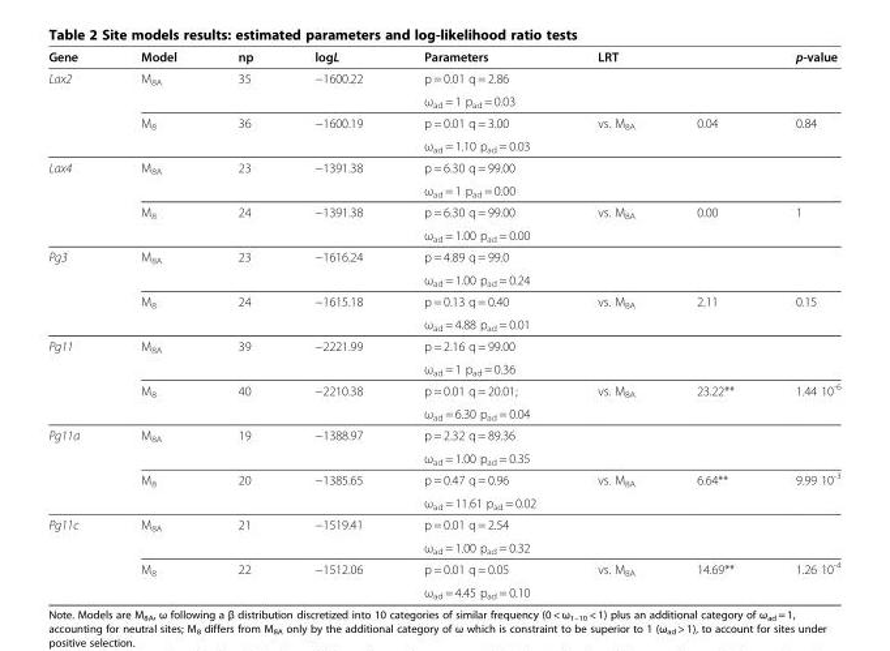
<table><thead><tr><td rowspan="2">Gene Lax2</td><td rowspan="2">Model M<sub>8A</sub></td><td rowspan="2">np 35</td><td rowspan="2">logL −1600.22</td><td rowspan="2">Parameters p = 0.01 q = 2.86</td><td colspan="2">LRT</td><td rowspan="2">p-value</td></tr><tr><td></td><td></td></tr></thead><tbody><tr><td></td><td></td><td></td><td></td><td>ω<sub>ad</sub> = 1 p<sub>ad</sub> = 0.03</td><td></td><td></td><td></td></tr><tr><td></td><td>M<sub>8</sub></td><td>36</td><td>−1600.19</td><td>p = 0.01 q = 3.00</td><td>vs. M<sub>8A</sub></td><td>0.04</td><td>0.84</td></tr><tr><td></td><td></td><td></td><td></td><td>ω<sub>ad</sub> = 1.10 p<sub>ad</sub> = 0.03</td><td></td><td></td><td></td></tr><tr><td rowspan="4">Lax4</td><td>M<sub>8A</sub></td><td>23</td><td>−1391.38</td><td>p = 6.30 q = 99.00</td><td></td><td></td><td></td></tr><tr><td></td><td></td><td></td><td>ω<sub>ad</sub> = 1 p<sub>ad</sub> = 0.00</td><td></td><td></td><td></td></tr><tr><td>M<sub>8</sub></td><td>24</td><td>−1391.38</td><td>p = 6.30 q = 99.00</td><td>vs. M<sub>8A</sub></td><td>0.00</td><td>1</td></tr><tr><td></td><td></td><td></td><td>ω<sub>ad</sub> = 1.00 p<sub>ad</sub> = 0.00</td><td></td><td></td><td></td></tr><tr><td rowspan="4">Pg3</td><td>M<sub>8A</sub></td><td>23</td><td>−1616.24</td><td>p = 4.89 q = 99.0</td><td></td><td></td><td></td></tr><tr><td></td><td></td><td></td><td>ω<sub>ad</sub> = 1.00 p<sub>ad</sub> = 0.24</td><td></td><td></td><td></td></tr><tr><td>M<sub>8</sub></td><td>24</td><td>−1615.18</td><td>p = 0.13 q = 0.40</td><td>vs. M<sub>8A</sub></td><td>2.11</td><td>0.15</td></tr><tr><td></td><td></td><td></td><td>ω<sub>ad</sub> = 4.88 p<sub>ad</sub> = 0.01</td><td></td><td></td><td></td></tr><tr><td rowspan="4">Pg11</td><td>M<sub>8A</sub></td><td>39</td><td>−2221.99</td><td>p = 2.16 q = 99.00</td><td></td><td></td><td></td></tr><tr><td></td><td></td><td></td><td>ω<sub>ad</sub> = 1 p<sub>ad</sub> = 0.36</td><td></td><td></td><td></td></tr><tr><td>M<sub>8</sub></td><td>40</td><td>−2210.38</td><td>p = 0.01 q = 20.01;</td><td>vs. M<sub>8A</sub></td><td>23.22**</td><td>1.44 10<sup>-6</sup></td></tr><tr><td></td><td></td><td></td><td>ω<sub>ad</sub> = 6.30 p<sub>ad</sub> = 0.04</td><td></td><td></td><td></td></tr><tr><td rowspan="4">Pg11a</td><td>M<sub>8A</sub></td><td>19</td><td>−1388.97</td><td>p = 2.32 q = 89.36</td><td></td><td></td><td></td></tr><tr><td></td><td></td><td></td><td>ω<sub>ad</sub> = 1.00 p<sub>ad</sub> = 0.35</td><td></td><td></td><td></td></tr><tr><td>M<sub>8</sub></td><td>20</td><td>−1385.65</td><td>p = 0.47 q = 0.96</td><td>vs. M<sub>8A</sub></td><td>6.64**</td><td>9.99 10<sup>-3</sup></td></tr><tr><td></td><td></td><td></td><td>ω<sub>ad</sub> = 11.61 p<sub>ad</sub> = 0.02</td><td></td><td></td><td></td></tr><tr><td rowspan="4">Pg11c</td><td>M<sub>8A</sub></td><td>21</td><td>−1519.41</td><td>p = 0.01 q = 2.54</td><td></td><td></td><td></td></tr><tr><td></td><td></td><td></td><td>ω<sub>ad</sub> = 1.00 p<sub>ad</sub> = 0.32</td><td></td><td></td><td></td></tr><tr><td>M<sub>8</sub></td><td>22</td><td>−1512.06</td><td>p = 0.01 q = 0.05</td><td>vs. M<sub>8A</sub></td><td>14.69**</td><td>1.26 10<sup>-4</sup></td></tr><tr><td></td><td></td><td></td><td>ω<sub>ad</sub> = 4.45 p<sub>ad</sub> = 0.10</td><td></td><td></td><td></td></tr></tbody></table>